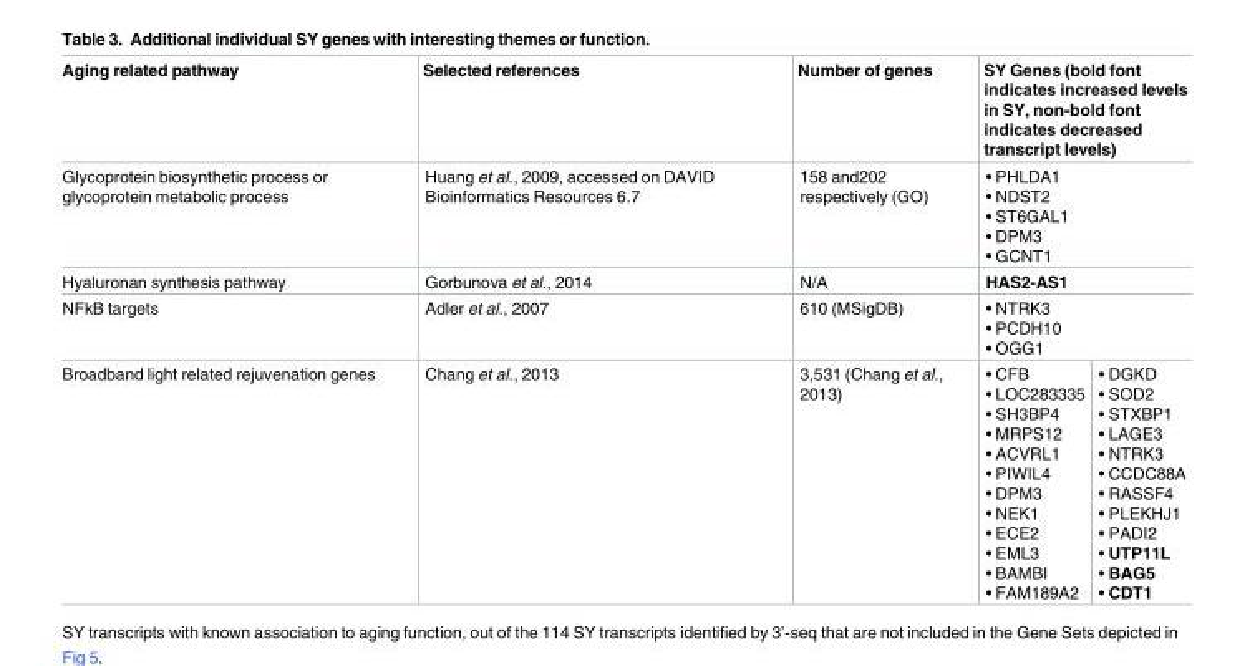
<table><thead><tr><td>Aging related pathway</td><td>Selected references</td><td>Number of genes</td><td colspan="2">SY Genes (bold font indicates increased levels in SY, non-bold font indicates decreased transcript levels)</td></tr></thead><tbody><tr><td>Glycoprotein biosynthetic process or glycoprotein metabolic process</td><td>Huang et al., 2009, accessed on DAVID Bioinformatics Resources 6.7</td><td>158 and202 respectively (GO)</td><td colspan="2">• PHLDA1 • NDST2 • ST6GAL1 • DPM3 • GCNT1</td></tr><tr><td>Hyaluronan synthesis pathway</td><td>Gorbunova et al., 2014</td><td>N/A</td><td colspan="2">HAS2-AS1</td></tr><tr><td>NFkB targets</td><td>Adler et al., 2007</td><td>610 (MSigDB)</td><td colspan="2">• NTRK3 • PCDH10 • OGG1</td></tr><tr><td>Broadband light related rejuvenation genes</td><td>Chang et al., 2013</td><td>3,531 (Chang et al., 2013)</td><td>• CFB • LOC283335 • SH3BP4 • MRPS12 • ACVRL1 • PIWIL4 • DPM3 • NEK1 • ECE2 • EML3 • BAMBI • FAM189A2</td><td>• DGKD • SOD2 • STXBP1 • LAGE3 • NTRK3 • CCDC88A • RASSF4 • PLEKHJ1 • PADI2 • UTP11L • BAG5 • CDT1</td></tr></tbody></table>